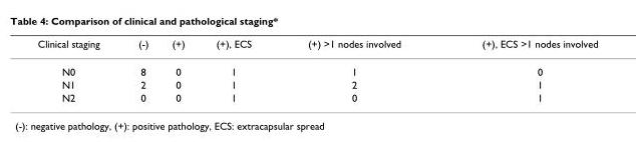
<table><thead><tr><td>Clinical staging</td><td>(-)</td><td>(+)</td><td>(+), ECS</td><td>(+) &gt;1 nodes involved</td><td>(+), ECS &gt;1 nodes involved</td></tr></thead><tbody><tr><td>N0</td><td>8</td><td>0</td><td>1</td><td>1</td><td>0</td></tr><tr><td>N1</td><td>2</td><td>0</td><td>1</td><td>2</td><td>1</td></tr><tr><td>N2</td><td>0</td><td>0</td><td>1</td><td>0</td><td>1</td></tr></tbody></table>